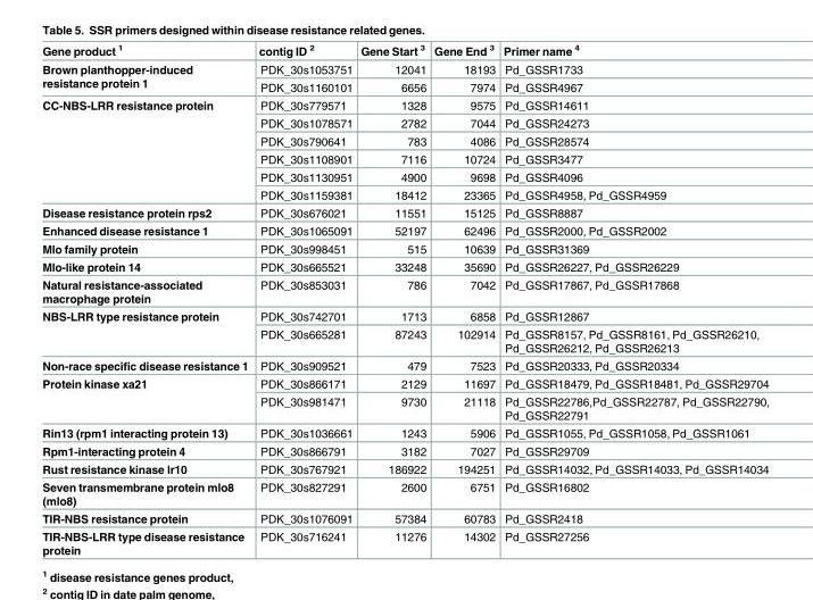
<table><thead><tr><td>Gene product <sup>1</sup></td><td>contig ID <sup>2</sup></td><td>Gene Start <sup>3</sup></td><td>Gene End <sup>3</sup></td><td>Primer name <sup>4</sup></td></tr></thead><tbody><tr><td rowspan="2">Brown planthopper-induced resistance protein 1</td><td>PDK_30s1053751</td><td>12041</td><td>18193</td><td>Pd_GSSR1733</td></tr><tr><td>PDK_30s1160101</td><td>6656</td><td>7974</td><td>Pd_GSSR4967</td></tr><tr><td rowspan="6">CC-NBS-LRR resistance protein</td><td>PDK_30s779571</td><td>1328</td><td>9575</td><td>Pd_GSSR14611</td></tr><tr><td>PDK_30s1078571</td><td>2782</td><td>7044</td><td>Pd_GSSR24273</td></tr><tr><td>PDK_30s790641</td><td>783</td><td>4086</td><td>Pd_GSSR28574</td></tr><tr><td>PDK_30s1108901</td><td>7116</td><td>10724</td><td>Pd_GSSR3477</td></tr><tr><td>PDK_30s1130951</td><td>4900</td><td>9698</td><td>Pd_GSSR4096</td></tr><tr><td>PDK_30s1159381</td><td>18412</td><td>23365</td><td>Pd_GSSR4958, Pd_GSSR4959</td></tr><tr><td>Disease resistance protein rps2</td><td>PDK_30s676021</td><td>11551</td><td>15125</td><td>Pd_GSSR8887</td></tr><tr><td>Enhanced disease resistance 1</td><td>PDK_30s1065091</td><td>52197</td><td>62496</td><td>Pd_GSSR2000, Pd_GSSR2002</td></tr><tr><td>Mlo family protein</td><td>PDK_30s998451</td><td>515</td><td>10639</td><td>Pd_GSSR31369</td></tr><tr><td>Mlo-like protein 14</td><td>PDK_30s665521</td><td>33248</td><td>35690</td><td>Pd_GSSR26227, Pd_GSSR26229</td></tr><tr><td>Natural resistance-associated macrophage protein</td><td>PDK_30s853031</td><td>786</td><td>7042</td><td>Pd_GSSR17867, Pd_GSSR17868</td></tr><tr><td rowspan="2">NBS-LRR type resistance protein</td><td>PDK_30s742701</td><td>1713</td><td>6858</td><td>Pd_GSSR12867</td></tr><tr><td>PDK_30s665281</td><td>87243</td><td>102914</td><td>Pd_GSSR8157, Pd_GSSR8161, Pd_GSSR26210, Pd_GSSR26212, Pd_GSSR26213</td></tr><tr><td>Non-race specific disease resistance 1</td><td>PDK_30s909521</td><td>479</td><td>7523</td><td>Pd_GSSR20333, Pd_GSSR20334</td></tr><tr><td rowspan="2">Protein kinase xa21</td><td>PDK_30s866171</td><td>2129</td><td>11697</td><td>Pd_GSSR18479, Pd_GSSR18481, Pd_GSSR29704</td></tr><tr><td>PDK_30s981471</td><td>9730</td><td>21118</td><td>Pd_GSSR22786,Pd_GSSR22787, Pd_GSSR22790, Pd_GSSR22791</td></tr><tr><td>Rin13 (rpm1 interacting protein 13)</td><td>PDK_30s1036661</td><td>1243</td><td>5906</td><td>Pd_GSSR1055, Pd_GSSR1058, Pd_GSSR1061</td></tr><tr><td>Rpm1-interacting protein 4</td><td>PDK_30s866791</td><td>3182</td><td>7027</td><td>Pd_GSSR29709</td></tr><tr><td>Rust resistance kinase lr10</td><td>PDK_30s767921</td><td>186922</td><td>194251</td><td>Pd_GSSR14032, Pd_GSSR14033, Pd_GSSR14034</td></tr><tr><td>Seven transmembrane protein mlo8 (mlo8)</td><td>PDK_30s827291</td><td>2600</td><td>6751</td><td>Pd_GSSR16802</td></tr><tr><td>TIR-NBS resistance protein</td><td>PDK_30s1076091</td><td>57384</td><td>60783</td><td>Pd_GSSR2418</td></tr><tr><td>TIR-NBS-LRR type disease resistance protein</td><td>PDK_30s716241</td><td>11276</td><td>14302</td><td>Pd_GSSR27256</td></tr></tbody></table>